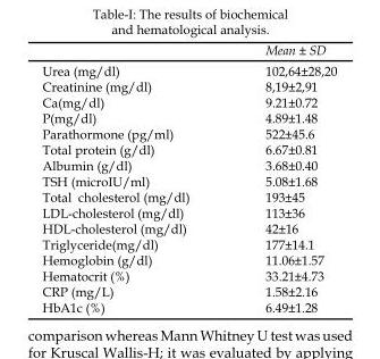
<table><thead><tr><td></td><td>Mean ± SD</td></tr></thead><tbody><tr><td>Urea (mg/dl)</td><td>102,64±28,20</td></tr><tr><td>Creatinine (mg/dl)</td><td>8,19±2,91</td></tr><tr><td>Ca(mg/dl)</td><td>9.21±0.72</td></tr><tr><td>P(mg/dl)</td><td>4.89±1.48</td></tr><tr><td>Parathormone (pg/ml)</td><td>522±45.6</td></tr><tr><td>Total protein (g/dl)</td><td>6.67±0.81</td></tr><tr><td>Albumin (g/dl)</td><td>3.68±0.40</td></tr><tr><td>TSH (microIU/ml)</td><td>5.08±1.68</td></tr><tr><td>Total cholesterol (mg/dl)</td><td>193±45</td></tr><tr><td>LDL-cholesterol (mg/dl)</td><td>113±36</td></tr><tr><td>HDL-cholesterol (mg/dl)</td><td>42±16</td></tr><tr><td>Triglyceride(mg/dl)</td><td>177±14.1</td></tr><tr><td>Hemoglobin (g/dl)</td><td>11.06±1.57</td></tr><tr><td>Hematocrit (%)</td><td>33.21±4.73</td></tr><tr><td>CRP (mg/L)</td><td>1.58±2.16</td></tr><tr><td>HbA1c (%)</td><td>6.49±1.28</td></tr></tbody></table>